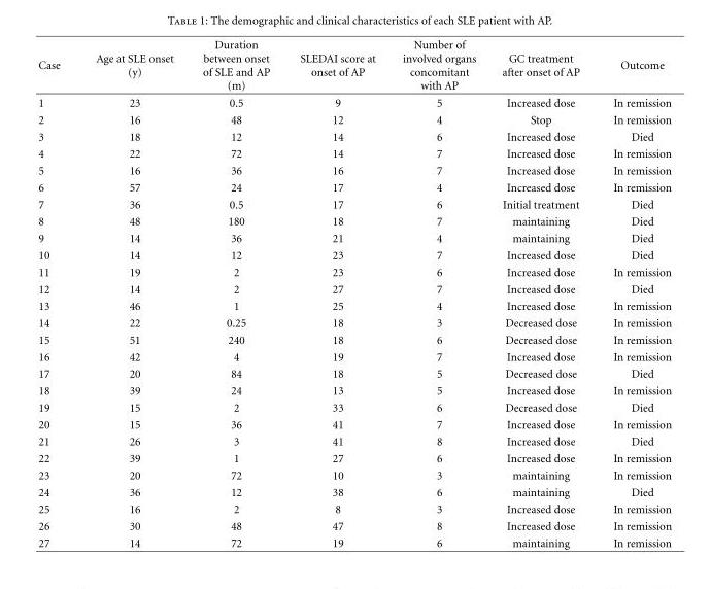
<table><thead><tr><td>Case</td><td>Age at SLE onset (y)</td><td>Duration between onset of SLE and AP (m)</td><td>SLEDAI score at onset of AP</td><td>Number of involved organs concomitant with AP</td><td>GC treatment after onset of AP</td><td>Outcome</td></tr></thead><tbody><tr><td>1</td><td>23</td><td>0.5</td><td>9</td><td>5</td><td>Increased dose</td><td>In remission</td></tr><tr><td>2</td><td>16</td><td>48</td><td>12</td><td>4</td><td>Stop</td><td>In remission</td></tr><tr><td>3</td><td>18</td><td>12</td><td>14</td><td>6</td><td>Increased dose</td><td>Died</td></tr><tr><td>4</td><td>22</td><td>72</td><td>14</td><td>7</td><td>Increased dose</td><td>In remission</td></tr><tr><td>5</td><td>16</td><td>36</td><td>16</td><td>7</td><td>Increased dose</td><td>In remission</td></tr><tr><td>6</td><td>57</td><td>24</td><td>17</td><td>4</td><td>Increased dose</td><td>In remission</td></tr><tr><td>7</td><td>36</td><td>0.5</td><td>17</td><td>6</td><td>Initial treatment</td><td>Died</td></tr><tr><td>8</td><td>48</td><td>180</td><td>18</td><td>7</td><td>maintaining</td><td>Died</td></tr><tr><td>9</td><td>14</td><td>36</td><td>21</td><td>4</td><td>maintaining</td><td>Died</td></tr><tr><td>10</td><td>14</td><td>12</td><td>23</td><td>7</td><td>Increased dose</td><td>Died</td></tr><tr><td>11</td><td>19</td><td>2</td><td>23</td><td>6</td><td>Increased dose</td><td>In remission</td></tr><tr><td>12</td><td>14</td><td>2</td><td>27</td><td>7</td><td>Increased dose</td><td>Died</td></tr><tr><td>13</td><td>46</td><td>1</td><td>25</td><td>4</td><td>Increased dose</td><td>In remission</td></tr><tr><td>14</td><td>22</td><td>0.25</td><td>18</td><td>3</td><td>Decreased dose</td><td>In remission</td></tr><tr><td>15</td><td>51</td><td>240</td><td>18</td><td>6</td><td>Decreased dose</td><td>In remission</td></tr><tr><td>16</td><td>42</td><td>4</td><td>19</td><td>7</td><td>Increased dose</td><td>In remission</td></tr><tr><td>17</td><td>20</td><td>84</td><td>18</td><td>5</td><td>Decreased dose</td><td>Died</td></tr><tr><td>18</td><td>39</td><td>24</td><td>13</td><td>5</td><td>Increased dose</td><td>In remission</td></tr><tr><td>19</td><td>15</td><td>2</td><td>33</td><td>6</td><td>Decreased dose</td><td>Died</td></tr><tr><td>20</td><td>15</td><td>36</td><td>41</td><td>7</td><td>Increased dose</td><td>In remission</td></tr><tr><td>21</td><td>26</td><td>3</td><td>41</td><td>8</td><td>Increased dose</td><td>Died</td></tr><tr><td>22</td><td>39</td><td>1</td><td>27</td><td>6</td><td>Increased dose</td><td>In remission</td></tr><tr><td>23</td><td>20</td><td>72</td><td>10</td><td>3</td><td>maintaining</td><td>In remission</td></tr><tr><td>24</td><td>36</td><td>12</td><td>38</td><td>6</td><td>maintaining</td><td>Died</td></tr><tr><td>25</td><td>16</td><td>2</td><td>8</td><td>3</td><td>Increased dose</td><td>In remission</td></tr><tr><td>26</td><td>30</td><td>48</td><td>47</td><td>8</td><td>Increased dose</td><td>In remission</td></tr><tr><td>27</td><td>14</td><td>72</td><td>19</td><td>6</td><td>maintaining</td><td>In remission</td></tr></tbody></table>